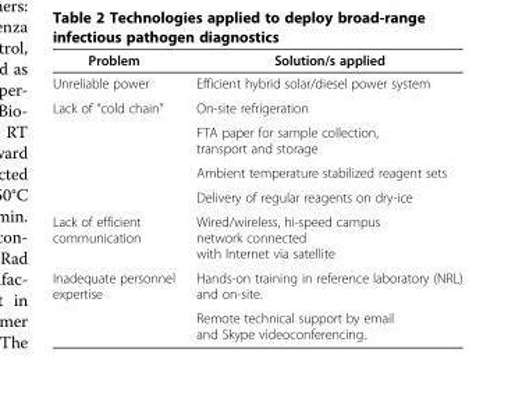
<table><thead><tr><td>Problem</td><td>Solution/s applied</td></tr></thead><tbody><tr><td>Unreliable power</td><td>Efficient hybrid solar/diesel power system</td></tr><tr><td rowspan="4">Lack of “cold chain”</td><td>On-site refrigeration</td></tr><tr><td>FTA paper for sample collection, transport and storage</td></tr><tr><td>Ambient temperature stabilized reagent sets</td></tr><tr><td>Delivery of regular reagents on dry-ice</td></tr><tr><td>Lack of efficient communication</td><td>Wired/wireless, hi-speed campus network connected with Internet via satellite</td></tr><tr><td rowspan="2">Inadequate personnel expertise</td><td>Hands-on training in reference laboratory (NRL) and on-site.</td></tr><tr><td>Remote technical support by email and Skype videoconferencing.</td></tr></tbody></table>